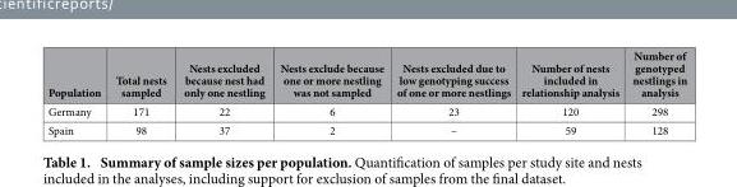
<table><thead><tr><td>Population</td><td>Total nests sampled</td><td>Nests excluded because nest had only one nestling</td><td>Nests exclude because one or more nestling was not sampled</td><td>Nests excluded due to low genotyping success of one or more nestlings</td><td>Number of nests included in relationship analysis</td><td>Number of genotyped nestlings in analysis</td></tr></thead><tbody><tr><td>Germany</td><td>171</td><td>22</td><td>6</td><td>23</td><td>120</td><td>298</td></tr><tr><td>Spain</td><td>98</td><td>37</td><td>2</td><td>–</td><td>59</td><td>128</td></tr></tbody></table>